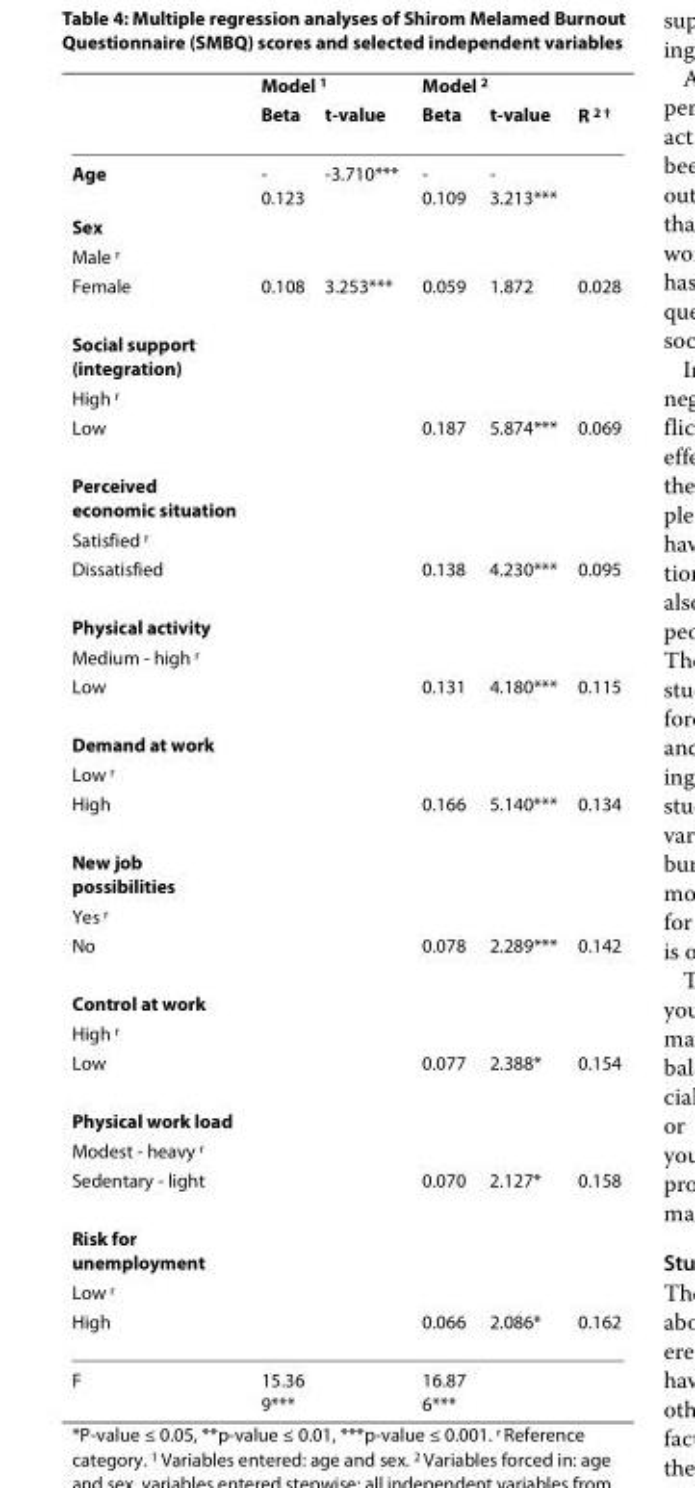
<table><thead><tr><td rowspan="2"></td><td colspan="2">Model <sup>1</sup></td><td colspan="2">Model <sup>2</sup></td><td rowspan="2">R <sup>2 †</sup></td></tr><tr><td>Beta</td><td>t-value</td><td>Beta</td><td>t-value</td></tr></thead><tbody><tr><td>Age</td><td>- 0.123</td><td>-3.710***</td><td>- 0.109</td><td>- 3.213***</td><td></td></tr><tr><td colspan="6">Sex</td></tr><tr><td colspan="6">Male <sup>r</sup></td></tr><tr><td>Female</td><td>0.108</td><td>3.253***</td><td>0.059</td><td>1.872</td><td>0.028</td></tr><tr><td colspan="6">Social support (integration)</td></tr><tr><td colspan="6">High <sup>r</sup></td></tr><tr><td>Low</td><td></td><td></td><td>0.187</td><td>5.874***</td><td>0.069</td></tr><tr><td colspan="6">Perceived economic situation</td></tr><tr><td colspan="6">Satisfied <sup>r</sup></td></tr><tr><td>Dissatisfied</td><td></td><td></td><td>0.138</td><td>4.230***</td><td>0.095</td></tr><tr><td colspan="6">Physical activity</td></tr><tr><td colspan="6">Medium - high <sup>r</sup></td></tr><tr><td>Low</td><td></td><td></td><td>0.131</td><td>4.180***</td><td>0.115</td></tr><tr><td colspan="6">Demand at work</td></tr><tr><td colspan="6">Low <sup>r</sup></td></tr><tr><td>High</td><td></td><td></td><td>0.166</td><td>5.140***</td><td>0.134</td></tr><tr><td colspan="6">New job possibilities</td></tr><tr><td colspan="6">Yes <sup>r</sup></td></tr><tr><td>No</td><td></td><td></td><td>0.078</td><td>2.289***</td><td>0.142</td></tr><tr><td colspan="6">Control at work</td></tr><tr><td colspan="6">High <sup>r</sup></td></tr><tr><td>Low</td><td></td><td></td><td>0.077</td><td>2.388*</td><td>0.154</td></tr><tr><td colspan="6">Physical work load</td></tr><tr><td colspan="6">Modest - heavy <sup>r</sup></td></tr><tr><td>Sedentary - light</td><td></td><td></td><td>0.070</td><td>2.127*</td><td>0.158</td></tr><tr><td colspan="6">Risk for unemployment</td></tr><tr><td colspan="6">Low <sup>r</sup></td></tr><tr><td>High</td><td></td><td></td><td>0.066</td><td>2.086*</td><td>0.162</td></tr><tr><td>F</td><td>15.36 9***</td><td></td><td>16.87 6***</td><td></td><td></td></tr></tbody></table>